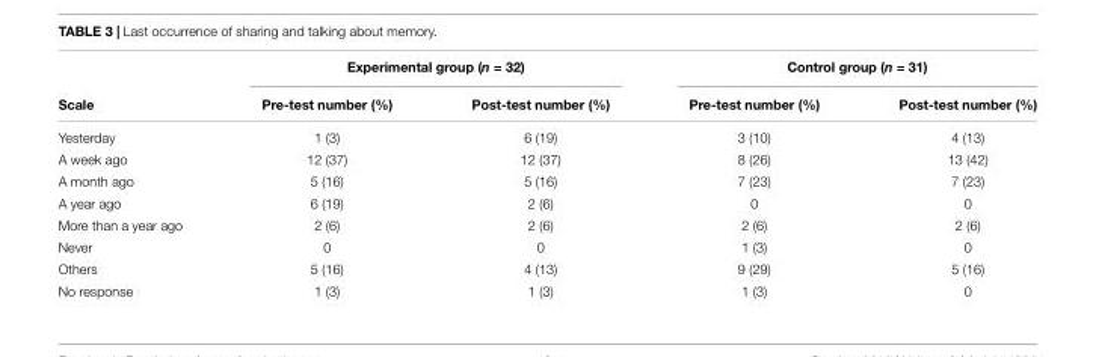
<table><thead><tr><td rowspan="2">Scale</td><td colspan="2">Experimental group (n = 32)</td><td colspan="2">Control group (n = 31)</td></tr><tr><td>Pre-test number (%)</td><td>Post-test number (%)</td><td>Pre-test number (%)</td><td>Post-test number (%)</td></tr></thead><tbody><tr><td>Yesterday</td><td>1 (3)</td><td>6 (19)</td><td>3 (10)</td><td>4 (13)</td></tr><tr><td>A week ago</td><td>12 (37)</td><td>12 (37)</td><td>8 (26)</td><td>13 (42)</td></tr><tr><td>A month ago</td><td>5 (16)</td><td>5 (16)</td><td>7 (23)</td><td>7 (23)</td></tr><tr><td>A year ago</td><td>6 (19)</td><td>2 (6)</td><td>0</td><td>0</td></tr><tr><td>More than a year ago</td><td>2 (6)</td><td>2 (6)</td><td>2 (6)</td><td>2 (6)</td></tr><tr><td>Never</td><td>0</td><td>0</td><td>1 (3)</td><td>0</td></tr><tr><td>Others</td><td>5 (16)</td><td>4 (13)</td><td>9 (29)</td><td>5 (16)</td></tr><tr><td>No response</td><td>1 (3)</td><td>1 (3)</td><td>1 (3)</td><td>0</td></tr></tbody></table>